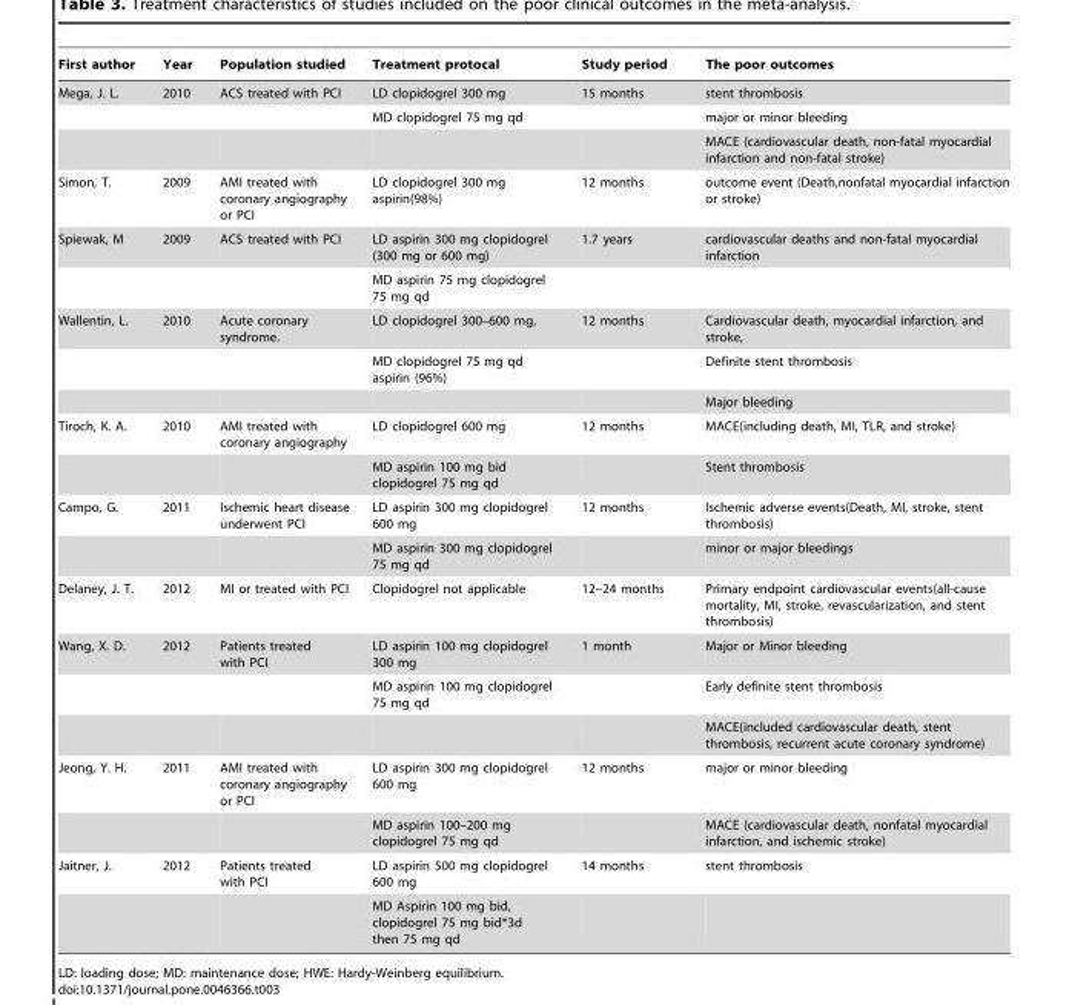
<table><thead><tr><td>First author</td><td>Year</td><td>Population studied</td><td>Treatment protocal</td><td>Study period</td><td>The poor outcomes</td></tr></thead><tbody><tr><td rowspan="3">Mega, J. L.</td><td>2010</td><td>ACS treated with PCI</td><td>LD clopidogrel 300 mg</td><td>15 months</td><td>stent thrombosis</td></tr><tr><td></td><td></td><td>MD clopidogrel 75 mg qd</td><td></td><td>major or minor bleeding</td></tr><tr><td></td><td></td><td></td><td></td><td>MACE (cardiovascular death, non-fatal myocardial infarction and non-fatal stroke)</td></tr><tr><td>Simon, T.</td><td>2009</td><td>AMI treated with coronary angiography or PCI</td><td>LD clopidogrel 300 mg aspirin(98%)</td><td>12 months</td><td>outcome event (Death,nonfatal myocardial infarction or stroke)</td></tr><tr><td rowspan="2">Spiewak, M</td><td>2009</td><td>ACS treated with PCI</td><td>LD aspirin 300 mg clopidogrel (300 mg or 600 mg)</td><td>1.7 years</td><td>cardiovascular deaths and non-fatal myocardial infarction</td></tr><tr><td></td><td></td><td>MD aspirin 75 mg clopidogrel 75 mg qd</td><td></td><td></td></tr><tr><td rowspan="3">Wallentin, L.</td><td>2010</td><td>Acute coronary syndrome.</td><td>LD clopidogrel 300–600 mg,</td><td>12 months</td><td>Cardiovascular death, myocardial infarction, and stroke,</td></tr><tr><td></td><td></td><td>MD clopidogrel 75 mg qd aspirin (96%)</td><td></td><td>Definite stent thrombosis</td></tr><tr><td></td><td></td><td></td><td></td><td>Major bleeding</td></tr><tr><td rowspan="2">Tiroch, K. A.</td><td>2010</td><td>AMI treated with coronary angiography</td><td>LD clopidogrel 600 mg</td><td>12 months</td><td>MACE(including death, MI, TLR, and stroke)</td></tr><tr><td></td><td></td><td>MD aspirin 100 mg bid clopidogrel 75 mg qd</td><td></td><td>Stent thrombosis</td></tr><tr><td rowspan="2">Campo, G.</td><td>2011</td><td>Ischemic heart disease underwent PCI</td><td>LD aspirin 300 mg clopidogrel 600 mg</td><td>12 months</td><td>Ischemic adverse events(Death, MI, stroke, stent thrombosis)</td></tr><tr><td></td><td></td><td>MD aspirin 300 mg clopidogrel 75 mg qd</td><td></td><td>minor or major bleedings</td></tr><tr><td>Delaney, J. T.</td><td>2012</td><td>MI or treated with PCI</td><td>Clopidogrel not applicable</td><td>12–24 months</td><td>Primary endpoint cardiovascular events(all-cause mortality, MI, stroke, revascularization, and stent thrombosis)</td></tr><tr><td rowspan="3">Wang, X. D.</td><td>2012</td><td>Patients treated with PCI</td><td>LD aspirin 100 mg clopidogrel 300 mg</td><td>1 month</td><td>Major or Minor bleeding</td></tr><tr><td></td><td></td><td>MD aspirin 100 mg clopidogrel 75 mg qd</td><td></td><td>Early definite stent thrombosis</td></tr><tr><td></td><td></td><td></td><td></td><td>MACE(included cardiovascular death, stent thrombosis, recurrent acute coronary syndrome)</td></tr><tr><td rowspan="2">Jeong, Y. H.</td><td>2011</td><td>AMI treated with coronary angiography or PCI</td><td>LD aspirin 300 mg clopidogrel 600 mg</td><td>12 months</td><td>major or minor bleeding</td></tr><tr><td></td><td></td><td>MD aspirin 100–200 mg clopidogrel 75 mg qd</td><td></td><td>MACE (cardiovascular death, nonfatal myocardial infarction, and ischemic stroke)</td></tr><tr><td rowspan="2">Jaitner, J.</td><td>2012</td><td>Patients treated with PCI</td><td>LD aspirin 500 mg clopidogrel 600 mg</td><td>14 months</td><td>stent thrombosis</td></tr><tr><td></td><td></td><td>MD Aspirin 100 mg bid, clopidogrel 75 mg bid*3d then 75 mg qd</td><td></td><td></td></tr></tbody></table>